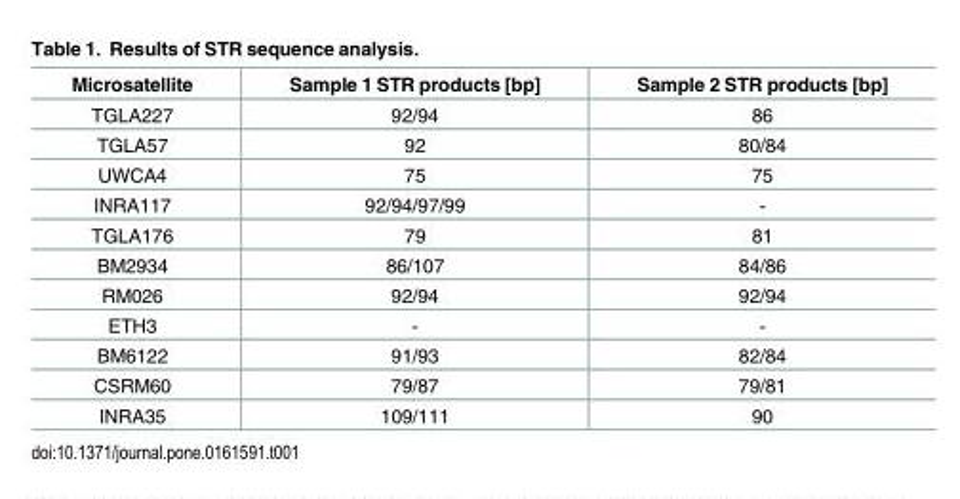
<table><thead><tr><td>Microsatellite</td><td>Sample 1 STR products [bp]</td><td>Sample 2 STR products [bp]</td></tr></thead><tbody><tr><td>TGLA227</td><td>92/94</td><td>86</td></tr><tr><td>TGLA57</td><td>92</td><td>80/84</td></tr><tr><td>UWCA4</td><td>75</td><td>75</td></tr><tr><td>INRA117</td><td>92/94/97/99</td><td>-</td></tr><tr><td>TGLA176</td><td>79</td><td>81</td></tr><tr><td>BM2934</td><td>86/107</td><td>84/86</td></tr><tr><td>RM026</td><td>92/94</td><td>92/94</td></tr><tr><td>ETH3</td><td>-</td><td>-</td></tr><tr><td>BM6122</td><td>91/93</td><td>82/84</td></tr><tr><td>CSRM60</td><td>79/87</td><td>79/81</td></tr><tr><td>INRA35</td><td>109/111</td><td>90</td></tr></tbody></table>